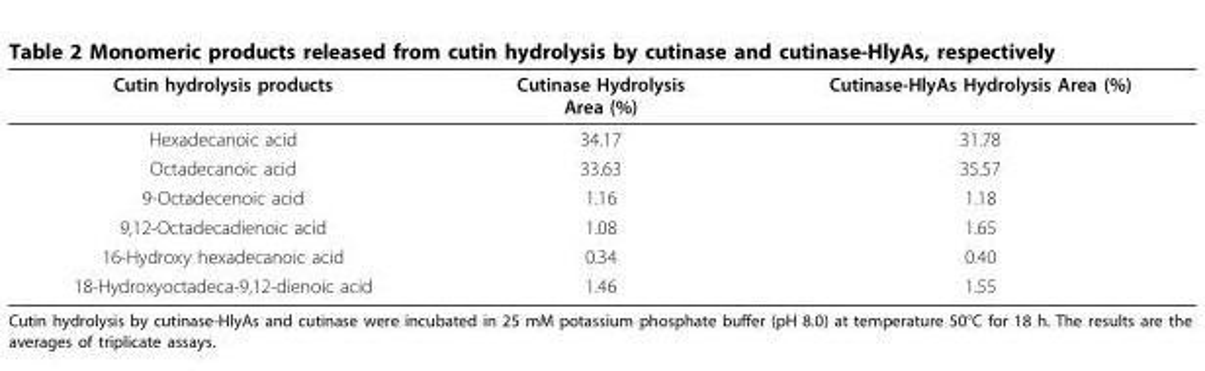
<table><thead><tr><td>Cutin hydrolysis products</td><td>Cutinase Hydrolysis Area (%)</td><td>Cutinase-HlyAs Hydrolysis Area (%)</td></tr></thead><tbody><tr><td>Hexadecanoic acid</td><td>34.17</td><td>31.78</td></tr><tr><td>Octadecanoic acid</td><td>33.63</td><td>35.57</td></tr><tr><td>9-Octadecenoic acid</td><td>1.16</td><td>1.18</td></tr><tr><td>9,12-Octadecadienoic acid</td><td>1.08</td><td>1.65</td></tr><tr><td>16-Hydroxy hexadecanoic acid</td><td>0.34</td><td>0.40</td></tr><tr><td>18-Hydroxyoctadeca-9,12-dienoic acid</td><td>1.46</td><td>1.55</td></tr></tbody></table>